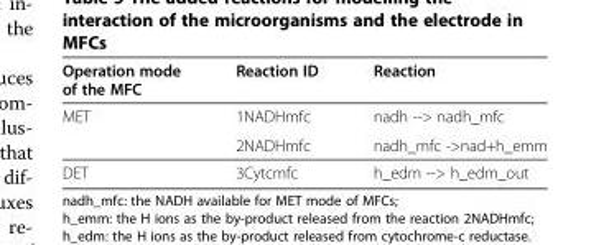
<table><thead><tr><td>Operation mode of the MFC</td><td>Reaction ID</td><td>Reaction</td></tr></thead><tbody><tr><td rowspan="2">MET</td><td>1NADHmfc</td><td>nadh --&gt; nadh_mfc</td></tr><tr><td>2NADHmfc</td><td>nadh_mfc -&gt;nad+h_emm</td></tr><tr><td>DET</td><td>3Cytcmfc</td><td>h_edm --&gt; h_edm_out</td></tr></tbody></table>